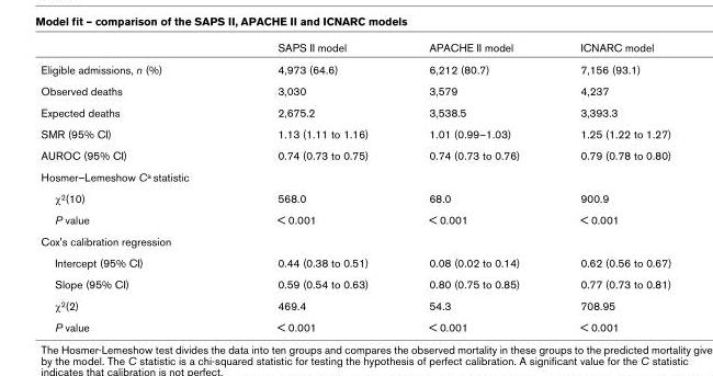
<table><thead><tr><td></td><td>SAPS II model</td><td>APACHE II model</td><td>ICNARC model</td></tr></thead><tbody><tr><td>Eligible admissions, n (%)</td><td>4,973 (64.6)</td><td>6,212 (80.7)</td><td>7,156 (93.1)</td></tr><tr><td>Observed deaths</td><td>3,030</td><td>3,579</td><td>4,237</td></tr><tr><td>Expected deaths</td><td>2,675.2</td><td>3,538.5</td><td>3,393.3</td></tr><tr><td>SMR (95% CI)</td><td>1.13 (1.11 to 1.16)</td><td>1.01 (0.99–1.03)</td><td>1.25 (1.22 to 1.27)</td></tr><tr><td>AUROC (95% CI)</td><td>0.74 (0.73 to 0.75)</td><td>0.74 (0.73 to 0.76)</td><td>0.79 (0.78 to 0.80)</td></tr><tr><td colspan="4">Hosmer–Lemeshow C<sup>a</sup> statistic</td></tr><tr><td>χ<sup>2</sup>(10)</td><td>568.0</td><td>68.0</td><td>900.9</td></tr><tr><td>P value</td><td>&lt; 0.001</td><td>&lt; 0.001</td><td>&lt; 0.001</td></tr><tr><td colspan="4">Cox&#x27;s calibration regression</td></tr><tr><td>Intercept (95% CI)</td><td>0.44 (0.38 to 0.51)</td><td>0.08 (0.02 to 0.14)</td><td>0.62 (0.56 to 0.67)</td></tr><tr><td>Slope (95% CI)</td><td>0.59 (0.54 to 0.63)</td><td>0.80 (0.75 to 0.85)</td><td>0.77 (0.73 to 0.81)</td></tr><tr><td>χ<sup>2</sup>(2)</td><td>469.4</td><td>54.3</td><td>708.95</td></tr><tr><td>P value</td><td>&lt; 0.001</td><td>&lt; 0.001</td><td>&lt; 0.001</td></tr></tbody></table>